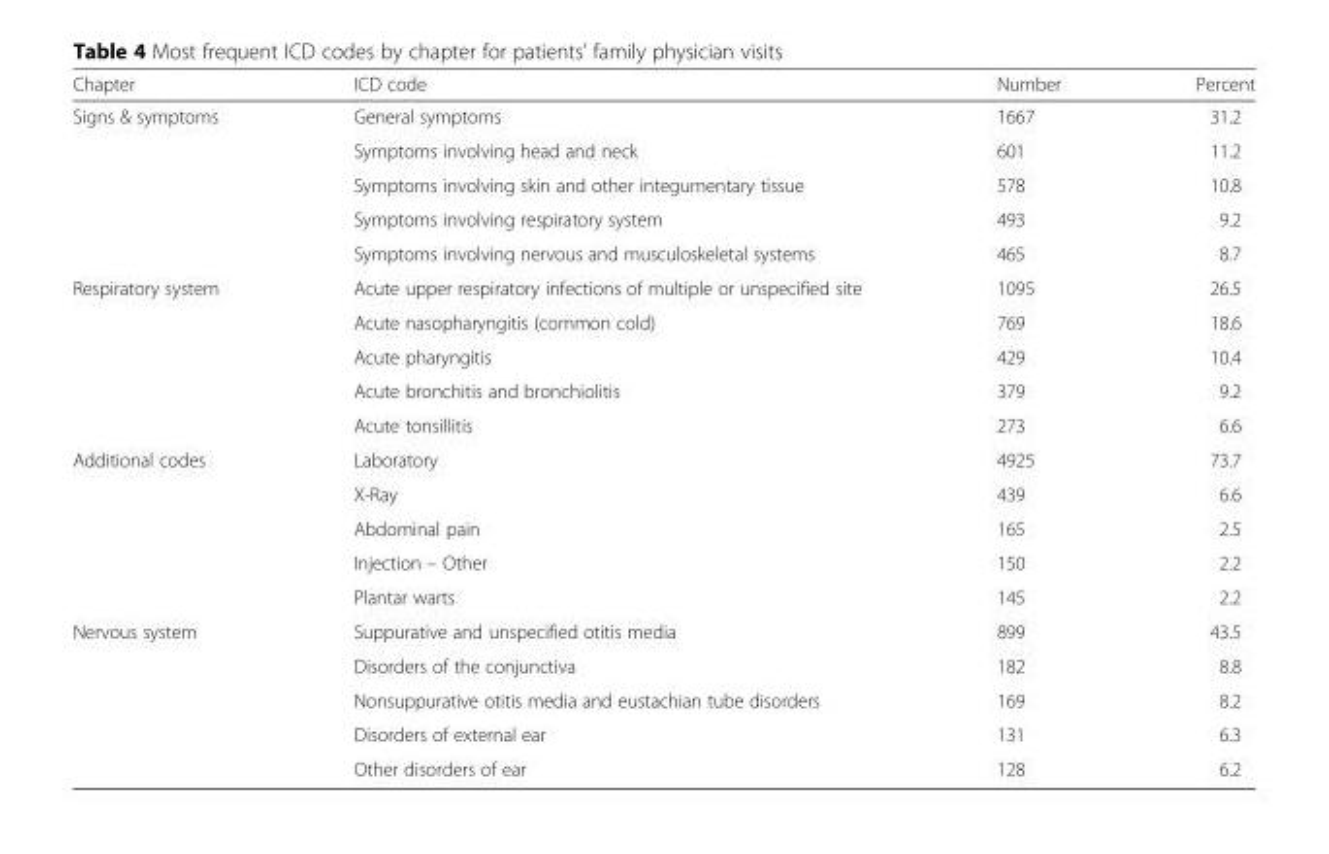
<table><thead><tr><td>Chapter</td><td>ICD code</td><td>Number</td><td>Percent</td></tr></thead><tbody><tr><td rowspan="5">Signs &amp; symptoms</td><td>General symptoms</td><td>1667</td><td>31.2</td></tr><tr><td>Symptoms involving head and neck</td><td>601</td><td>11.2</td></tr><tr><td>Symptoms involving skin and other integumentary tissue</td><td>578</td><td>10.8</td></tr><tr><td>Symptoms involving respiratory system</td><td>493</td><td>9.2</td></tr><tr><td>Symptoms involving nervous and musculoskeletal systems</td><td>465</td><td>8.7</td></tr><tr><td rowspan="5">Respiratory system</td><td>Acute upper respiratory infections of multiple or unspecified site</td><td>1095</td><td>26.5</td></tr><tr><td>Acute nasopharyngitis (common cold)</td><td>769</td><td>18.6</td></tr><tr><td>Acute pharyngitis</td><td>429</td><td>10.4</td></tr><tr><td>Acute bronchitis and bronchiolitis</td><td>379</td><td>9.2</td></tr><tr><td>Acute tonsillitis</td><td>273</td><td>6.6</td></tr><tr><td rowspan="5">Additional codes</td><td>Laboratory</td><td>4925</td><td>73.7</td></tr><tr><td>X-Ray</td><td>439</td><td>6.6</td></tr><tr><td>Abdominal pain</td><td>165</td><td>2.5</td></tr><tr><td>Injection – Other</td><td>150</td><td>2.2</td></tr><tr><td>Plantar warts</td><td>145</td><td>2.2</td></tr><tr><td rowspan="5">Nervous system</td><td>Suppurative and unspecified otitis media</td><td>899</td><td>43.5</td></tr><tr><td>Disorders of the conjunctiva</td><td>182</td><td>8.8</td></tr><tr><td>Nonsuppurative otitis media and eustachian tube disorders</td><td>169</td><td>8.2</td></tr><tr><td>Disorders of external ear</td><td>131</td><td>6.3</td></tr><tr><td>Other disorders of ear</td><td>128</td><td>6.2</td></tr></tbody></table>